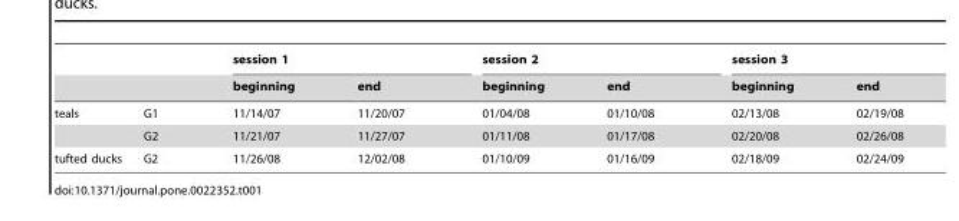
<table><thead><tr><td rowspan="2"></td><td rowspan="2"></td><td colspan="2">session 1</td><td colspan="2">session 2</td><td colspan="2">session 3</td></tr><tr><td>beginning</td><td>end</td><td>beginning</td><td>end</td><td>beginning</td><td>end</td></tr></thead><tbody><tr><td rowspan="2">teals</td><td>G1</td><td>11/14/07</td><td>11/20/07</td><td>01/04/08</td><td>01/10/08</td><td>02/13/08</td><td>02/19/08</td></tr><tr><td>G2</td><td>11/21/07</td><td>11/27/07</td><td>01/11/08</td><td>01/17/08</td><td>02/20/08</td><td>02/26/08</td></tr><tr><td>tufted ducks</td><td>G2</td><td>11/26/08</td><td>12/02/08</td><td>01/10/09</td><td>01/16/09</td><td>02/18/09</td><td>02/24/09</td></tr></tbody></table>